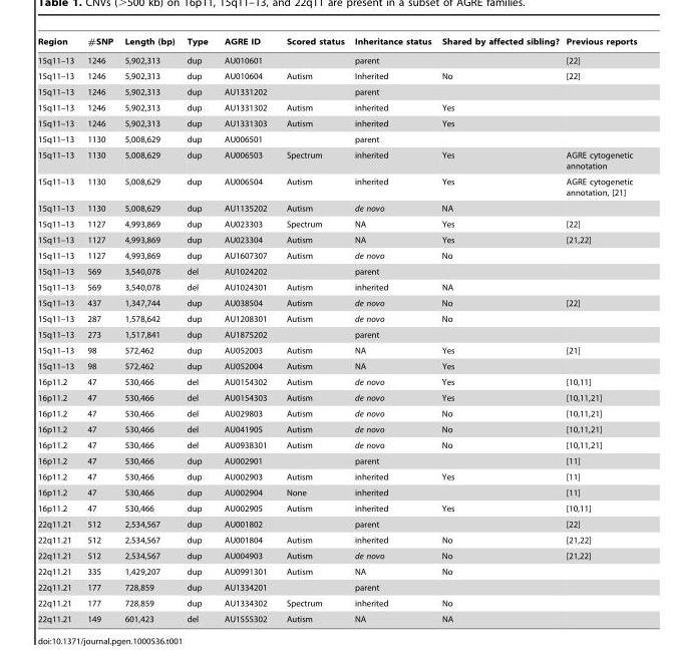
<table><thead><tr><td>Region</td><td>#SNP</td><td>Length (bp)</td><td>Type</td><td>AGRE ID</td><td>Scored status</td><td>Inheritance status</td><td>Shared by affected sibling?</td><td>Previous reports</td></tr></thead><tbody><tr><td>15q11–13</td><td>1246</td><td>5,902,313</td><td>dup</td><td>AU010601</td><td></td><td>parent</td><td></td><td>[22]</td></tr><tr><td>15q11–13</td><td>1246</td><td>5,902,313</td><td>dup</td><td>AU010604</td><td>Autism</td><td>Inherited</td><td>No</td><td>[22]</td></tr><tr><td>15q11–13</td><td>1246</td><td>5,902,313</td><td>dup</td><td>AU1331202</td><td></td><td>parent</td><td></td><td></td></tr><tr><td>15q11–13</td><td>1246</td><td>5,902,313</td><td>dup</td><td>AU1331302</td><td>Autism</td><td>inherited</td><td>Yes</td><td></td></tr><tr><td>15q11–13</td><td>1246</td><td>5,902,313</td><td>dup</td><td>AU1331303</td><td>Autism</td><td>inherited</td><td>Yes</td><td></td></tr><tr><td>15q11–13</td><td>1130</td><td>5,008,629</td><td>dup</td><td>AU006501</td><td></td><td>parent</td><td></td><td></td></tr><tr><td>15q11–13</td><td>1130</td><td>5,008,629</td><td>dup</td><td>AU006503</td><td>Spectrum</td><td>inherited</td><td>Yes</td><td>AGRE cytogenetic annotation</td></tr><tr><td>15q11–13</td><td>1130</td><td>5,008,629</td><td>dup</td><td>AU006504</td><td>Autism</td><td>inherited</td><td>Yes</td><td>AGRE cytogenetic annotation, [21]</td></tr><tr><td>15q11–13</td><td>1130</td><td>5,008,629</td><td>dup</td><td>AU1135202</td><td>Autism</td><td>de novo</td><td>NA</td><td></td></tr><tr><td>15q11–13</td><td>1127</td><td>4,993,869</td><td>dup</td><td>AU023303</td><td>Spectrum</td><td>NA</td><td>Yes</td><td>[22]</td></tr><tr><td>15q11–13</td><td>1127</td><td>4,993,869</td><td>dup</td><td>AU023304</td><td>Autism</td><td>NA</td><td>Yes</td><td>[21,22]</td></tr><tr><td>15q11–13</td><td>1127</td><td>4,993,869</td><td>dup</td><td>AU1607307</td><td>Autism</td><td>de novo</td><td>No</td><td></td></tr><tr><td>15q11–13</td><td>569</td><td>3,540,078</td><td>del</td><td>AU1024202</td><td></td><td>parent</td><td></td><td></td></tr><tr><td>15q11–13</td><td>569</td><td>3,540,078</td><td>del</td><td>AU1024301</td><td>Autism</td><td>inherited</td><td>NA</td><td></td></tr><tr><td>15q11–13</td><td>437</td><td>1,347,744</td><td>dup</td><td>AU038504</td><td>Autism</td><td>de novo</td><td>No</td><td>[22]</td></tr><tr><td>15q11–13</td><td>287</td><td>1,578,642</td><td>dup</td><td>AU1208301</td><td>Autism</td><td>de novo</td><td>No</td><td></td></tr><tr><td>15q11–13</td><td>273</td><td>1,517,841</td><td>dup</td><td>AU1875202</td><td></td><td>parent</td><td></td><td></td></tr><tr><td>15q11–13</td><td>98</td><td>572,462</td><td>dup</td><td>AU052003</td><td>Autism</td><td>NA</td><td>Yes</td><td>[21]</td></tr><tr><td>15q11–13</td><td>98</td><td>572,462</td><td>dup</td><td>AU052004</td><td>Autism</td><td>NA</td><td>Yes</td><td></td></tr><tr><td>16p11.2</td><td>47</td><td>530,466</td><td>del</td><td>AU0154302</td><td>Autism</td><td>de novo</td><td>Yes</td><td>[10,11]</td></tr><tr><td>16p11.2</td><td>47</td><td>530,466</td><td>del</td><td>AU0154303</td><td>Autism</td><td>de novo</td><td>Yes</td><td>[10,11,21]</td></tr><tr><td>16p11.2</td><td>47</td><td>530,466</td><td>del</td><td>AU029803</td><td>Autism</td><td>de novo</td><td>No</td><td>[10,11,21]</td></tr><tr><td>16p11.2</td><td>47</td><td>530,466</td><td>del</td><td>AU041905</td><td>Autism</td><td>de novo</td><td>No</td><td>[10,11,21]</td></tr><tr><td>16p11.2</td><td>47</td><td>530,466</td><td>del</td><td>AU0938301</td><td>Autism</td><td>de novo</td><td>No</td><td>[10,11,21]</td></tr><tr><td>16p11.2</td><td>47</td><td>530,466</td><td>dup</td><td>AU002901</td><td></td><td>parent</td><td></td><td>[11]</td></tr><tr><td>16p11.2</td><td>47</td><td>530,466</td><td>dup</td><td>AU002903</td><td>Autism</td><td>inherited</td><td>Yes</td><td>[11]</td></tr><tr><td>16p11.2</td><td>47</td><td>530,466</td><td>dup</td><td>AU002904</td><td>None</td><td>inherited</td><td></td><td>[11]</td></tr><tr><td>16p11.2</td><td>47</td><td>530,466</td><td>dup</td><td>AU002905</td><td>Autism</td><td>inherited</td><td>Yes</td><td>[10,11]</td></tr><tr><td>22q11.21</td><td>512</td><td>2,534,567</td><td>dup</td><td>AU001802</td><td></td><td>parent</td><td></td><td>[22]</td></tr><tr><td>22q11.21</td><td>512</td><td>2,534,567</td><td>dup</td><td>AU001804</td><td>Autism</td><td>inherited</td><td>No</td><td>[21,22]</td></tr><tr><td>22q11.21</td><td>512</td><td>2,534,567</td><td>dup</td><td>AU004903</td><td>Autism</td><td>de novo</td><td>No</td><td>[21,22]</td></tr><tr><td>22q11.21</td><td>335</td><td>1,429,207</td><td>dup</td><td>AU0991301</td><td>Autism</td><td>NA</td><td>No</td><td></td></tr><tr><td>22q11.21</td><td>177</td><td>728,859</td><td>dup</td><td>AU1334201</td><td></td><td>parent</td><td></td><td></td></tr><tr><td>22q11.21</td><td>177</td><td>728,859</td><td>dup</td><td>AU1334302</td><td>Spectrum</td><td>inherited</td><td>No</td><td></td></tr><tr><td>22q11.21</td><td>149</td><td>601,423</td><td>del</td><td>AU1555302</td><td>Autism</td><td>NA</td><td>NA</td><td></td></tr></tbody></table>